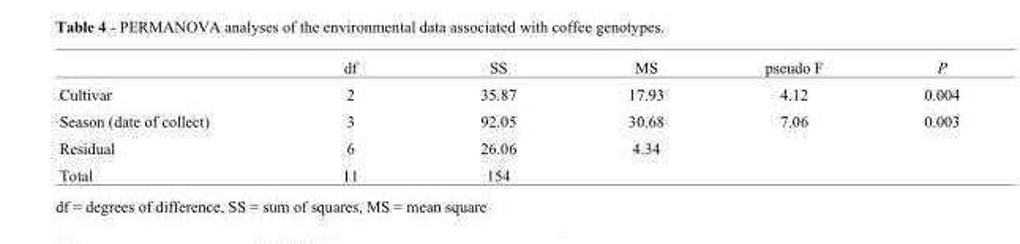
<table><thead><tr><td></td><td>df</td><td>SS</td><td>MS</td><td>pseudo F</td><td>P</td></tr></thead><tbody><tr><td>Cultivar</td><td>2</td><td>35.87</td><td>17.93</td><td>4.12</td><td>0.004</td></tr><tr><td>Season (date of collect)</td><td>3</td><td>92.05</td><td>30.68</td><td>7.06</td><td>0.003</td></tr><tr><td>Residual</td><td>6</td><td>26.06</td><td>4.34</td><td></td><td></td></tr><tr><td>Total</td><td>11</td><td>154</td><td></td><td></td><td></td></tr></tbody></table>